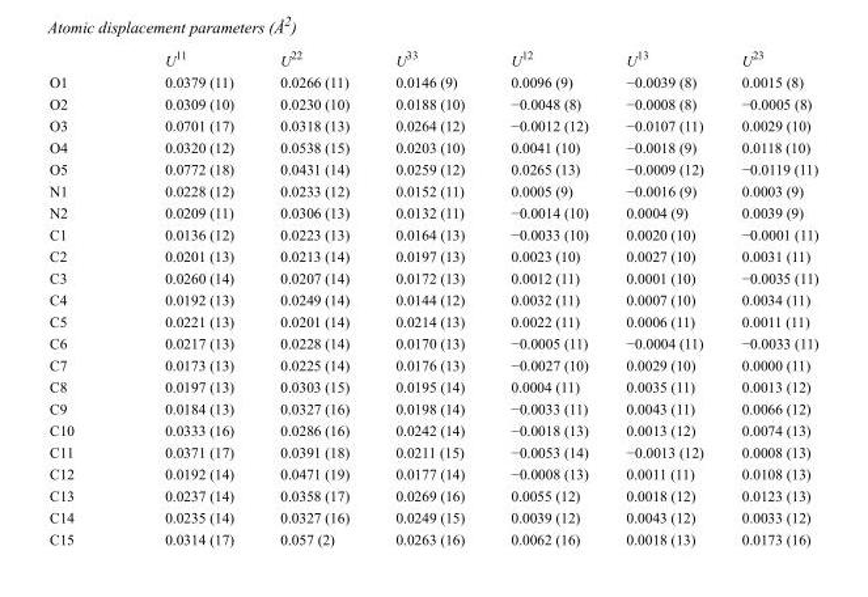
<table><thead><tr><td></td><td>U<sup>11</sup></td><td>U<sup>22</sup></td><td>U<sup>33</sup></td><td>U<sup>12</sup></td><td>U<sup>13</sup></td><td>U<sup>23</sup></td></tr></thead><tbody><tr><td>O1</td><td>0.0379 (11)</td><td>0.0266 (11)</td><td>0.0146 (9)</td><td>0.0096 (9)</td><td>−0.0039 (8)</td><td>0.0015 (8)</td></tr><tr><td>O2</td><td>0.0309 (10)</td><td>0.0230 (10)</td><td>0.0188 (10)</td><td>−0.0048 (8)</td><td>−0.0008 (8)</td><td>−0.0005 (8)</td></tr><tr><td>O3</td><td>0.0701 (17)</td><td>0.0318 (13)</td><td>0.0264 (12)</td><td>−0.0012 (12)</td><td>−0.0107 (11)</td><td>0.0029 (10)</td></tr><tr><td>O4</td><td>0.0320 (12)</td><td>0.0538 (15)</td><td>0.0203 (10)</td><td>0.0041 (10)</td><td>−0.0018 (9)</td><td>0.0118 (10)</td></tr><tr><td>O5</td><td>0.0772 (18)</td><td>0.0431 (14)</td><td>0.0259 (12)</td><td>0.0265 (13)</td><td>−0.0009 (12)</td><td>−0.0119 (11)</td></tr><tr><td>N1</td><td>0.0228 (12)</td><td>0.0233 (12)</td><td>0.0152 (11)</td><td>0.0005 (9)</td><td>−0.0016 (9)</td><td>0.0003 (9)</td></tr><tr><td>N2</td><td>0.0209 (11)</td><td>0.0306 (13)</td><td>0.0132 (11)</td><td>−0.0014 (10)</td><td>0.0004 (9)</td><td>0.0039 (9)</td></tr><tr><td>C1</td><td>0.0136 (12)</td><td>0.0223 (13)</td><td>0.0164 (13)</td><td>−0.0033 (10)</td><td>0.0020 (10)</td><td>−0.0001 (11)</td></tr><tr><td>C2</td><td>0.0201 (13)</td><td>0.0213 (14)</td><td>0.0197 (13)</td><td>0.0023 (10)</td><td>0.0027 (10)</td><td>0.0031 (11)</td></tr><tr><td>C3</td><td>0.0260 (14)</td><td>0.0207 (14)</td><td>0.0172 (13)</td><td>0.0012 (11)</td><td>0.0001 (10)</td><td>−0.0035 (11)</td></tr><tr><td>C4</td><td>0.0192 (13)</td><td>0.0249 (14)</td><td>0.0144 (12)</td><td>0.0032 (11)</td><td>0.0007 (10)</td><td>0.0034 (11)</td></tr><tr><td>C5</td><td>0.0221 (13)</td><td>0.0201 (14)</td><td>0.0214 (13)</td><td>0.0022 (11)</td><td>0.0006 (11)</td><td>0.0011 (11)</td></tr><tr><td>C6</td><td>0.0217 (13)</td><td>0.0228 (14)</td><td>0.0170 (13)</td><td>−0.0005 (11)</td><td>−0.0004 (11)</td><td>−0.0033 (11)</td></tr><tr><td>C7</td><td>0.0173 (13)</td><td>0.0225 (14)</td><td>0.0176 (13)</td><td>−0.0027 (10)</td><td>0.0029 (10)</td><td>0.0000 (11)</td></tr><tr><td>C8</td><td>0.0197 (13)</td><td>0.0303 (15)</td><td>0.0195 (14)</td><td>0.0004 (11)</td><td>0.0035 (11)</td><td>0.0013 (12)</td></tr><tr><td>C9</td><td>0.0184 (13)</td><td>0.0327 (16)</td><td>0.0198 (14)</td><td>−0.0033 (11)</td><td>0.0043 (11)</td><td>0.0066 (12)</td></tr><tr><td>C10</td><td>0.0333 (16)</td><td>0.0286 (16)</td><td>0.0242 (14)</td><td>−0.0018 (13)</td><td>0.0013 (12)</td><td>0.0074 (13)</td></tr><tr><td>C11</td><td>0.0371 (17)</td><td>0.0391 (18)</td><td>0.0211 (15)</td><td>−0.0053 (14)</td><td>−0.0013 (12)</td><td>0.0008 (13)</td></tr><tr><td>C12</td><td>0.0192 (14)</td><td>0.0471 (19)</td><td>0.0177 (14)</td><td>−0.0008 (13)</td><td>0.0011 (11)</td><td>0.0108 (13)</td></tr><tr><td>C13</td><td>0.0237 (14)</td><td>0.0358 (17)</td><td>0.0269 (16)</td><td>0.0055 (12)</td><td>0.0018 (12)</td><td>0.0123 (13)</td></tr><tr><td>C14</td><td>0.0235 (14)</td><td>0.0327 (16)</td><td>0.0249 (15)</td><td>0.0039 (12)</td><td>0.0043 (12)</td><td>0.0033 (12)</td></tr><tr><td>C15</td><td>0.0314 (17)</td><td>0.057 (2)</td><td>0.0263 (16)</td><td>0.0062 (16)</td><td>0.0018 (13)</td><td>0.0173 (16)</td></tr></tbody></table>